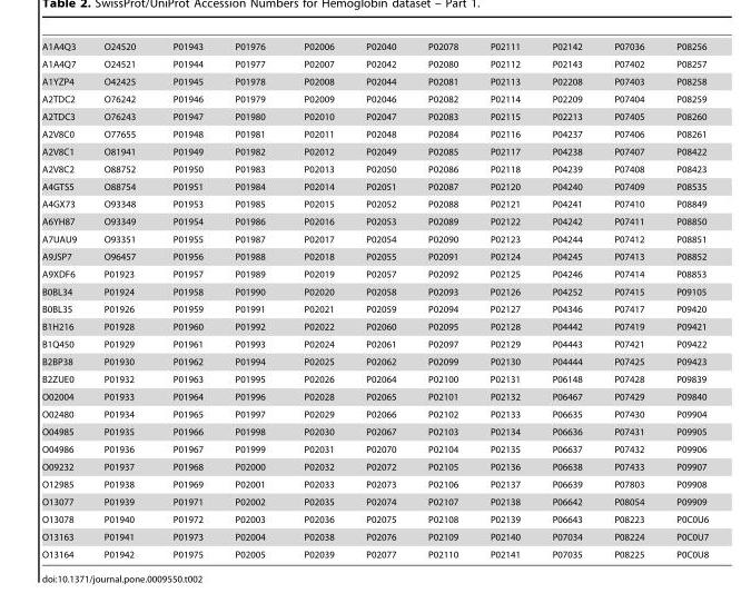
<table><tbody><tr><td>A1A4Q3</td><td>O24520</td><td>P01943</td><td>P01976</td><td>P02006</td><td>P02040</td><td>P02078</td><td>P02111</td><td>P02142</td><td>P07036</td><td>P08256</td></tr><tr><td>A1A4Q7</td><td>O24521</td><td>P01944</td><td>P01977</td><td>P02007</td><td>P02042</td><td>P02080</td><td>P02112</td><td>P02143</td><td>P07402</td><td>P08257</td></tr><tr><td>A1YZP4</td><td>O42425</td><td>P01945</td><td>P01978</td><td>P02008</td><td>P02044</td><td>P02081</td><td>P02113</td><td>P02208</td><td>P07403</td><td>P08258</td></tr><tr><td>A2TDC2</td><td>O76242</td><td>P01946</td><td>P01979</td><td>P02009</td><td>P02046</td><td>P02082</td><td>P02114</td><td>P02209</td><td>P07404</td><td>P08259</td></tr><tr><td>A2TDC3</td><td>O76243</td><td>P01947</td><td>P01980</td><td>P02010</td><td>P02047</td><td>P02083</td><td>P02115</td><td>P02213</td><td>P07405</td><td>P08260</td></tr><tr><td>A2V8C0</td><td>O77655</td><td>P01948</td><td>P01981</td><td>P02011</td><td>P02048</td><td>P02084</td><td>P02116</td><td>P04237</td><td>P07406</td><td>P08261</td></tr><tr><td>A2V8C1</td><td>O81941</td><td>P01949</td><td>P01982</td><td>P02012</td><td>P02049</td><td>P02085</td><td>P02117</td><td>P04238</td><td>P07407</td><td>P08422</td></tr><tr><td>A2V8C2</td><td>O88752</td><td>P01950</td><td>P01983</td><td>P02013</td><td>P02050</td><td>P02086</td><td>P02118</td><td>P04239</td><td>P07408</td><td>P08423</td></tr><tr><td>A4GTS5</td><td>O88754</td><td>P01951</td><td>P01984</td><td>P02014</td><td>P02051</td><td>P02087</td><td>P02120</td><td>P04240</td><td>P07409</td><td>P08535</td></tr><tr><td>A4GX73</td><td>O93348</td><td>P01953</td><td>P01985</td><td>P02015</td><td>P02052</td><td>P02088</td><td>P02121</td><td>P04241</td><td>P07410</td><td>P08849</td></tr><tr><td>A6YH87</td><td>O93349</td><td>P01954</td><td>P01986</td><td>P02016</td><td>P02053</td><td>P02089</td><td>P02122</td><td>P04242</td><td>P07411</td><td>P08850</td></tr><tr><td>A7UAU9</td><td>O93351</td><td>P01955</td><td>P01987</td><td>P02017</td><td>P02054</td><td>P02090</td><td>P02123</td><td>P04244</td><td>P07412</td><td>P08851</td></tr><tr><td>A9JSP7</td><td>O96457</td><td>P01956</td><td>P01988</td><td>P02018</td><td>P02055</td><td>P02091</td><td>P02124</td><td>P04245</td><td>P07413</td><td>P08852</td></tr><tr><td>A9XDF6</td><td>P01923</td><td>P01957</td><td>P01989</td><td>P02019</td><td>P02057</td><td>P02092</td><td>P02125</td><td>P04246</td><td>P07414</td><td>P08853</td></tr><tr><td>B0BL34</td><td>P01924</td><td>P01958</td><td>P01990</td><td>P02020</td><td>P02058</td><td>P02093</td><td>P02126</td><td>P04252</td><td>P07415</td><td>P09105</td></tr><tr><td>B0BL35</td><td>P01926</td><td>P01959</td><td>P01991</td><td>P02021</td><td>P02059</td><td>P02094</td><td>P02127</td><td>P04346</td><td>P07417</td><td>P09420</td></tr><tr><td>B1H216</td><td>P01928</td><td>P01960</td><td>P01992</td><td>P02022</td><td>P02060</td><td>P02095</td><td>P02128</td><td>P04442</td><td>P07419</td><td>P09421</td></tr><tr><td>B1Q450</td><td>P01929</td><td>P01961</td><td>P01993</td><td>P02024</td><td>P02061</td><td>P02097</td><td>P02129</td><td>P04443</td><td>P07421</td><td>P09422</td></tr><tr><td>B2BP38</td><td>P01930</td><td>P01962</td><td>P01994</td><td>P02025</td><td>P02062</td><td>P02099</td><td>P02130</td><td>P04444</td><td>P07425</td><td>P09423</td></tr><tr><td>B2ZUE0</td><td>P01932</td><td>P01963</td><td>P01995</td><td>P02026</td><td>P02064</td><td>P02100</td><td>P02131</td><td>P06148</td><td>P07428</td><td>P09839</td></tr><tr><td>O02004</td><td>P01933</td><td>P01964</td><td>P01996</td><td>P02028</td><td>P02065</td><td>P02101</td><td>P02132</td><td>P06467</td><td>P07429</td><td>P09840</td></tr><tr><td>O02480</td><td>P01934</td><td>P01965</td><td>P01997</td><td>P02029</td><td>P02066</td><td>P02102</td><td>P02133</td><td>P06635</td><td>P07430</td><td>P09904</td></tr><tr><td>O04985</td><td>P01935</td><td>P01966</td><td>P01998</td><td>P02030</td><td>P02067</td><td>P02103</td><td>P02134</td><td>P06636</td><td>P07431</td><td>P09905</td></tr><tr><td>O04986</td><td>P01936</td><td>P01967</td><td>P01999</td><td>P02031</td><td>P02070</td><td>P02104</td><td>P02135</td><td>P06637</td><td>P07432</td><td>P09906</td></tr><tr><td>O09232</td><td>P01937</td><td>P01968</td><td>P02000</td><td>P02032</td><td>P02072</td><td>P02105</td><td>P02136</td><td>P06638</td><td>P07433</td><td>P09907</td></tr><tr><td>O12985</td><td>P01938</td><td>P01969</td><td>P02001</td><td>P02033</td><td>P02073</td><td>P02106</td><td>P02137</td><td>P06639</td><td>P07803</td><td>P09908</td></tr><tr><td>O13077</td><td>P01939</td><td>P01971</td><td>P02002</td><td>P02035</td><td>P02074</td><td>P02107</td><td>P02138</td><td>P06642</td><td>P08054</td><td>P09909</td></tr><tr><td>O13078</td><td>P01940</td><td>P01972</td><td>P02003</td><td>P02036</td><td>P02075</td><td>P02108</td><td>P02139</td><td>P06643</td><td>P08223</td><td>P0C0U6</td></tr><tr><td>O13163</td><td>P01941</td><td>P01973</td><td>P02004</td><td>P02038</td><td>P02076</td><td>P02109</td><td>P02140</td><td>P07034</td><td>P08224</td><td>P0C0U7</td></tr><tr><td>O13164</td><td>P01942</td><td>P01975</td><td>P02005</td><td>P02039</td><td>P02077</td><td>P02110</td><td>P02141</td><td>P07035</td><td>P08225</td><td>P0C0U8</td></tr></tbody></table>